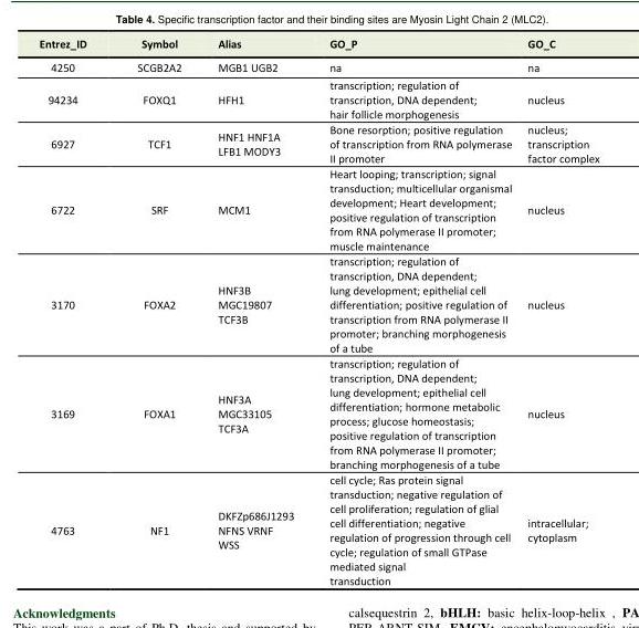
<table><tbody><tr><td>Entrez_ID</td><td>Symbol</td><td>Alias</td><td>GO_P</td><td>GO_C</td></tr><tr><td>4250</td><td>SCGB2A2</td><td>MGB1 UGB2</td><td>na</td><td>na</td></tr><tr><td>94234</td><td>FOXQ1</td><td>HFH1</td><td>transcription; regulation of transcription, DNA dependent; hair follicle morphogenesis</td><td>nucleus</td></tr><tr><td>6927</td><td>TCF1</td><td>HNF1 HNF1A LFB1 MODY3</td><td>Bone resorption; positive regulation of transcription from RNA polymerase II promoter</td><td>nucleus; transcription factor complex</td></tr><tr><td>6722</td><td>SRF</td><td>MCM1</td><td>Heart looping; transcription; signal transduction; multicellular organismal development; Heart development; positive regulation of transcription from RNA polymerase II promoter; muscle maintenance</td><td>nucleus</td></tr><tr><td>3170</td><td>FOXA2</td><td>HNF3B MGC19807 TCF3B</td><td>transcription; regulation of transcription, DNA dependent; lung development; epithelial cell differentiation; positive regulation of transcription from RNA polymerase II promoter; branching morphogenesis of a tube</td><td>nucleus</td></tr><tr><td>3169</td><td>FOXA1</td><td>HNF3A MGC33105 TCF3A</td><td>transcription; regulation of transcription, DNA dependent; lung development; epithelial cell differentiation; hormone metabolic process; glucose homeostasis; positive regulation of transcription from RNA polymerase II promoter; branching morphogenesis of a tube</td><td>nucleus</td></tr><tr><td>4763</td><td>NF1</td><td>DKFZp686J1293 NFNS VRNF WSS</td><td>cell cycle; Ras protein signal transduction; negative regulation of cell proliferation; regulation of glial cell differentiation; negative regulation of progression through cell cycle; regulation of small GTPase mediated signal transduction</td><td>intracellular; cytoplasm</td></tr></tbody></table>